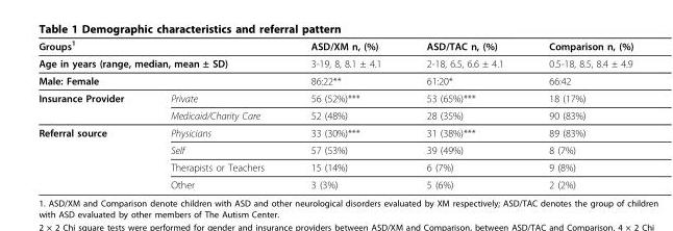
<table><thead><tr><td rowspan="3" colspan="2">Groups1 Age in years (range, median, mean ± SD) Male: Female</td><td rowspan="4">ASD/XM n, (%) 3-19, 8, 8.1 ± 4.1 86:22** 56 (52%)***</td><td rowspan="4">ASD/TAC n, (%) 2-18, 6.5, 6.6 ± 4.1 61:20* 53 (65%)***</td><td rowspan="4">Comparison n, (%) 0.5-18, 8.5, 8.4 ± 4.9 66:42 18 (17%)</td></tr><tr></tr><tr></tr><tr><td>Insurance Provider</td><td>Private</td></tr></thead><tbody><tr><td></td><td>Medicaid/Charity Care</td><td>52 (48%)</td><td>28 (35%)</td><td>90 (83%)</td></tr><tr><td rowspan="4">Referral source</td><td>Physicians</td><td>33 (30%)***</td><td>31 (38%)***</td><td>89 (83%)</td></tr><tr><td>Self</td><td>57 (53%)</td><td>39 (49%)</td><td>8 (7%)</td></tr><tr><td>Therapists or Teachers</td><td>15 (14%)</td><td>6 (7%)</td><td>9 (8%)</td></tr><tr><td>Other</td><td>3 (3%)</td><td>5 (6%)</td><td>2 (2%)</td></tr></tbody></table>